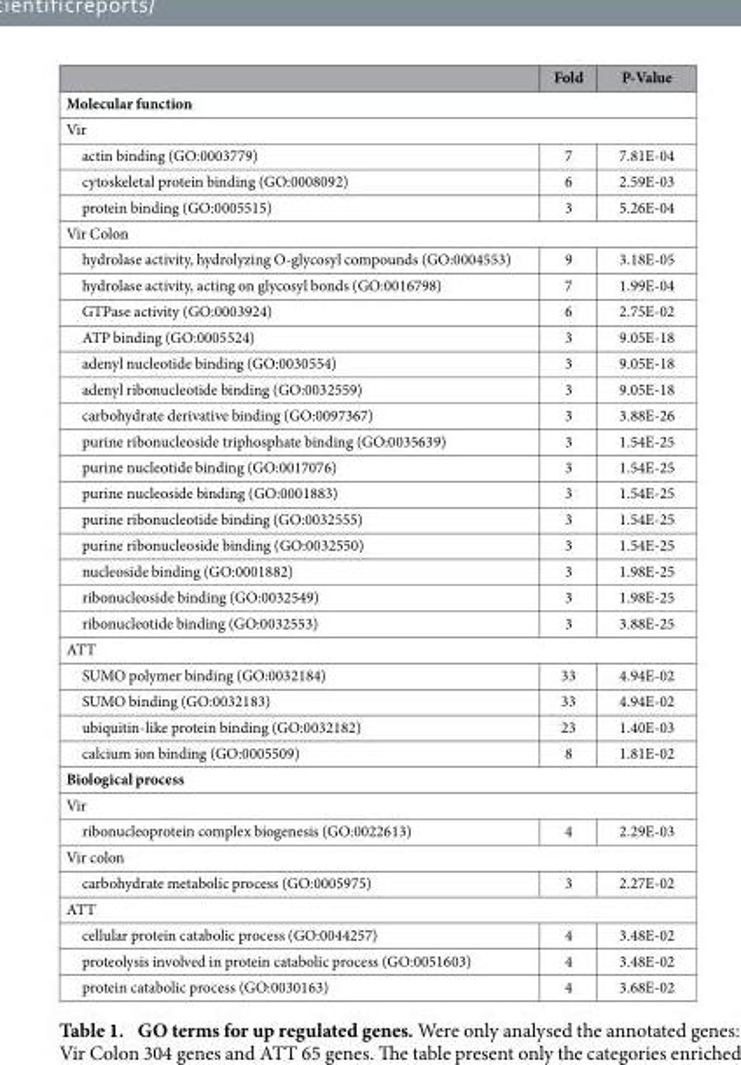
<table><thead><tr><td></td><td>Fold</td><td>P-Value</td></tr></thead><tbody><tr><td colspan="3">Molecular function</td></tr><tr><td colspan="3">Vir</td></tr><tr><td>actin binding (GO:0003779)</td><td>7</td><td>7.81E-04</td></tr><tr><td>cytoskeletal protein binding (GO:0008092)</td><td>6</td><td>2.59E-03</td></tr><tr><td>protein binding (GO:0005515)</td><td>3</td><td>5.26E-04</td></tr><tr><td colspan="3">Vir Colon</td></tr><tr><td>hydrolase activity, hydrolyzing O-glycosyl compounds (GO:0004553)</td><td>9</td><td>3.18E-05</td></tr><tr><td>hydrolase activity, acting on glycosyl bonds (GO:0016798)</td><td>7</td><td>1.99E-04</td></tr><tr><td>GTPase activity (GO:0003924)</td><td>6</td><td>2.75E-02</td></tr><tr><td>ATP binding (GO:0005524)</td><td>3</td><td>9.05E-18</td></tr><tr><td>adenyl nucleotide binding (GO:0030554)</td><td>3</td><td>9.05E-18</td></tr><tr><td>adenyl ribonucleotide binding (GO:0032559)</td><td>3</td><td>9.05E-18</td></tr><tr><td>carbohydrate derivative binding (GO:0097367)</td><td>3</td><td>3.88E-26</td></tr><tr><td>purine ribonucleoside triphosphate binding (GO:0035639)</td><td>3</td><td>1.54E-25</td></tr><tr><td>purine nucleotide binding (GO:0017076)</td><td>3</td><td>1.54E-25</td></tr><tr><td>purine nucleoside binding (GO:0001883)</td><td>3</td><td>1.54E-25</td></tr><tr><td>purine ribonucleotide binding (GO:0032555)</td><td>3</td><td>1.54E-25</td></tr><tr><td>purine ribonucleoside binding (GO:0032550)</td><td>3</td><td>1.54E-25</td></tr><tr><td>nucleoside binding (GO:0001882)</td><td>3</td><td>1.98E-25</td></tr><tr><td>ribonucleoside binding (GO:0032549)</td><td>3</td><td>1.98E-25</td></tr><tr><td>ribonucleotide binding (GO:0032553)</td><td>3</td><td>3.88E-25</td></tr><tr><td colspan="3">ATT</td></tr><tr><td>SUMO polymer binding (GO:0032184)</td><td>33</td><td>4.94E-02</td></tr><tr><td>SUMO binding (GO:0032183)</td><td>33</td><td>4.94E-02</td></tr><tr><td>ubiquitin-like protein binding (GO:0032182)</td><td>23</td><td>1.40E-03</td></tr><tr><td>calcium ion binding (GO:0005509)</td><td>8</td><td>1.81E-02</td></tr><tr><td colspan="3">Biological process</td></tr><tr><td colspan="3">Vir</td></tr><tr><td>ribonucleoprotein complex biogenesis (GO:0022613)</td><td>4</td><td>2.29E-03</td></tr><tr><td colspan="3">Vir colon</td></tr><tr><td>carbohydrate metabolic process (GO:0005975)</td><td>3</td><td>2.27E-02</td></tr><tr><td colspan="3">ATT</td></tr><tr><td>cellular protein catabolic process (GO:0044257)</td><td>4</td><td>3.48E-02</td></tr><tr><td>proteolysis involved in protein catabolic process (GO:0051603)</td><td>4</td><td>3.48E-02</td></tr><tr><td>protein catabolic process (GO:0030163)</td><td>4</td><td>3.68E-02</td></tr></tbody></table>